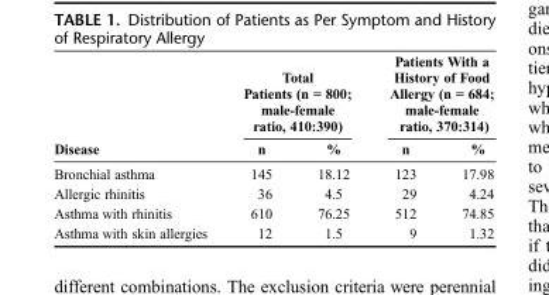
<table><thead><tr><td rowspan="2">Disease</td><td colspan="2">Total Patients (n = 800; male-female ratio, 410:390)</td><td colspan="2">Patients With a History of Food Allergy (n = 684; male-female ratio, 370:314)</td></tr><tr><td>n</td><td>%</td><td>n</td><td>%</td></tr></thead><tbody><tr><td>Bronchial asthma</td><td>145</td><td>18.12</td><td>123</td><td>17.98</td></tr><tr><td>Allergic rhinitis</td><td>36</td><td>4.5</td><td>29</td><td>4.24</td></tr><tr><td>Asthma with rhinitis</td><td>610</td><td>76.25</td><td>512</td><td>74.85</td></tr><tr><td>Asthma with skin allergies</td><td>12</td><td>1.5</td><td>9</td><td>1.32</td></tr></tbody></table>